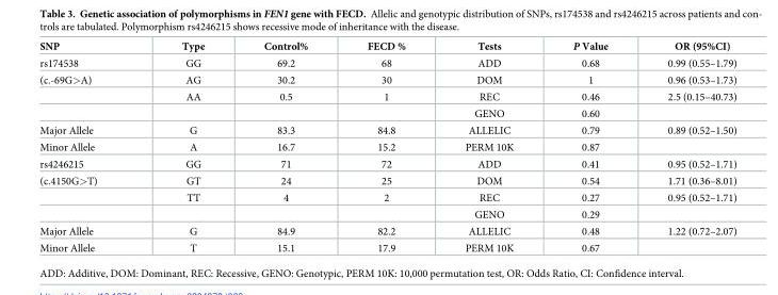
<table><thead><tr><td>SNP</td><td>Type</td><td>Control%</td><td>FECD %</td><td>Tests</td><td>P Value</td><td>OR (95%CI)</td></tr></thead><tbody><tr><td>rs174538</td><td>GG</td><td>69.2</td><td>68</td><td>ADD</td><td>0.68</td><td>0.99 (0.55–1.79)</td></tr><tr><td rowspan="3">(c.-69G&gt;A)</td><td>AG</td><td>30.2</td><td>30</td><td>DOM</td><td>1</td><td>0.96 (0.53–1.73)</td></tr><tr><td>AA</td><td>0.5</td><td>1</td><td>REC</td><td>0.46</td><td>2.5 (0.15–40.73)</td></tr><tr><td></td><td></td><td></td><td>GENO</td><td>0.60</td><td></td></tr><tr><td>Major Allele</td><td>G</td><td>83.3</td><td>84.8</td><td>ALLELIC</td><td>0.79</td><td>0.89 (0.52–1.50)</td></tr><tr><td>Minor Allele</td><td>A</td><td>16.7</td><td>15.2</td><td>PERM 10K</td><td>0.87</td><td></td></tr><tr><td>rs4246215</td><td>GG</td><td>71</td><td>72</td><td>ADD</td><td>0.41</td><td>0.95 (0.52–1.71)</td></tr><tr><td rowspan="3">(c.4150G&gt;T)</td><td>GT</td><td>24</td><td>25</td><td>DOM</td><td>0.54</td><td>1.71 (0.36–8.01)</td></tr><tr><td>TT</td><td>4</td><td>2</td><td>REC</td><td>0.27</td><td>0.95 (0.52–1.71)</td></tr><tr><td></td><td></td><td></td><td>GENO</td><td>0.29</td><td></td></tr><tr><td>Major Allele</td><td>G</td><td>84.9</td><td>82.2</td><td>ALLELIC</td><td>0.48</td><td>1.22 (0.72–2.07)</td></tr><tr><td>Minor Allele</td><td>T</td><td>15.1</td><td>17.9</td><td>PERM 10K</td><td>0.67</td><td></td></tr></tbody></table>